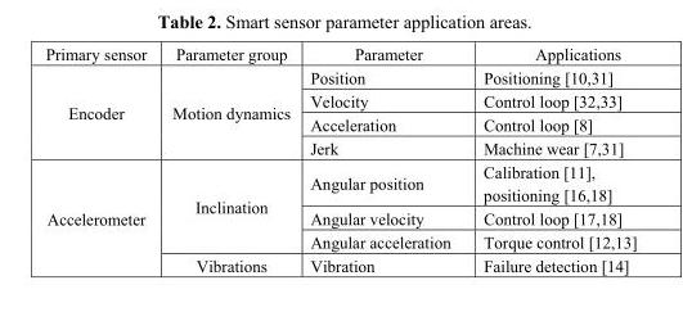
<table><thead><tr><td>Primary sensor</td><td>Parameter group</td><td>Parameter</td><td>Applications</td></tr></thead><tbody><tr><td rowspan="4">Encoder</td><td rowspan="4">Motion dynamics</td><td>Position</td><td>Positioning [10,31]</td></tr><tr><td>Velocity</td><td>Control loop [32,33]</td></tr><tr><td>Acceleration</td><td>Control loop [8]</td></tr><tr><td>Jerk</td><td>Machine wear [7,31]</td></tr><tr><td rowspan="4">Accelerometer</td><td rowspan="3">Inclination</td><td>Angular position</td><td>Calibration [11], positioning [16,18]</td></tr><tr><td>Angular velocity</td><td>Control loop [17,18]</td></tr><tr><td>Angular acceleration</td><td>Torque control [12,13]</td></tr><tr><td>Vibrations</td><td>Vibration</td><td>Failure detection [14]</td></tr></tbody></table>